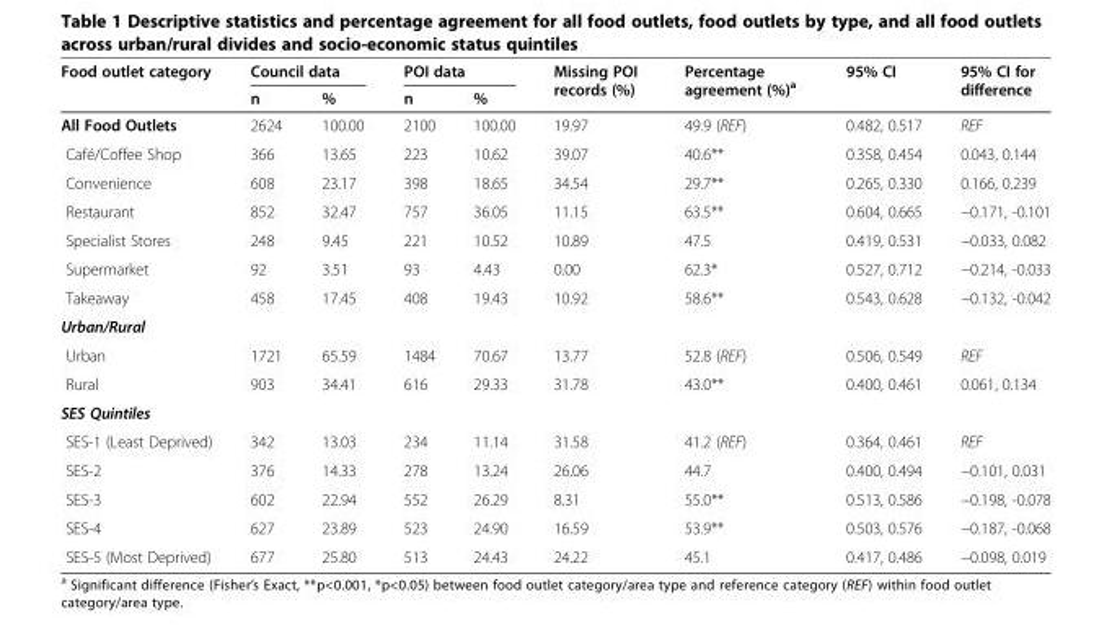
<table><thead><tr><td rowspan="2">Food outlet category</td><td colspan="2">Council data</td><td colspan="2">POI data</td><td rowspan="2">Missing POI records (%)</td><td rowspan="2">Percentage agreement (%)<sup>a</sup></td><td rowspan="2">95% CI</td><td rowspan="2">95% CI for difference</td></tr><tr><td>n</td><td>%</td><td>n</td><td>%</td></tr></thead><tbody><tr><td>All Food Outlets</td><td>2624</td><td>100.00</td><td>2100</td><td>100.00</td><td>19.97</td><td>49.9 (REF)</td><td>0.482, 0.517</td><td>REF</td></tr><tr><td>Café/Coffee Shop</td><td>366</td><td>13.65</td><td>223</td><td>10.62</td><td>39.07</td><td>40.6**</td><td>0.358, 0.454</td><td>0.043, 0.144</td></tr><tr><td>Convenience</td><td>608</td><td>23.17</td><td>398</td><td>18.65</td><td>34.54</td><td>29.7**</td><td>0.265, 0.330</td><td>0.166, 0.239</td></tr><tr><td>Restaurant</td><td>852</td><td>32.47</td><td>757</td><td>36.05</td><td>11.15</td><td>63.5**</td><td>0.604, 0.665</td><td>−0.171, -0.101</td></tr><tr><td>Specialist Stores</td><td>248</td><td>9.45</td><td>221</td><td>10.52</td><td>10.89</td><td>47.5</td><td>0.419, 0.531</td><td>−0.033, 0.082</td></tr><tr><td>Supermarket</td><td>92</td><td>3.51</td><td>93</td><td>4.43</td><td>0.00</td><td>62.3*</td><td>0.527, 0.712</td><td>−0.214, -0.033</td></tr><tr><td>Takeaway</td><td>458</td><td>17.45</td><td>408</td><td>19.43</td><td>10.92</td><td>58.6**</td><td>0.543, 0.628</td><td>−0.132, -0.042</td></tr><tr><td colspan="9">Urban/Rural</td></tr><tr><td>Urban</td><td>1721</td><td>65.59</td><td>1484</td><td>70.67</td><td>13.77</td><td>52.8 (REF)</td><td>0.506, 0.549</td><td>REF</td></tr><tr><td>Rural</td><td>903</td><td>34.41</td><td>616</td><td>29.33</td><td>31.78</td><td>43.0**</td><td>0.400, 0.461</td><td>0.061, 0.134</td></tr><tr><td colspan="9">SES Quintiles</td></tr><tr><td>SES-1 (Least Deprived)</td><td>342</td><td>13.03</td><td>234</td><td>11.14</td><td>31.58</td><td>41.2 (REF)</td><td>0.364, 0.461</td><td>REF</td></tr><tr><td>SES-2</td><td>376</td><td>14.33</td><td>278</td><td>13.24</td><td>26.06</td><td>44.7</td><td>0.400, 0.494</td><td>−0.101, 0.031</td></tr><tr><td>SES-3</td><td>602</td><td>22.94</td><td>552</td><td>26.29</td><td>8.31</td><td>55.0**</td><td>0.513, 0.586</td><td>−0.198, -0.078</td></tr><tr><td>SES-4</td><td>627</td><td>23.89</td><td>523</td><td>24.90</td><td>16.59</td><td>53.9**</td><td>0.503, 0.576</td><td>−0.187, -0.068</td></tr><tr><td>SES-5 (Most Deprived)</td><td>677</td><td>25.80</td><td>513</td><td>24.43</td><td>24.22</td><td>45.1</td><td>0.417, 0.486</td><td>−0.098, 0.019</td></tr></tbody></table>